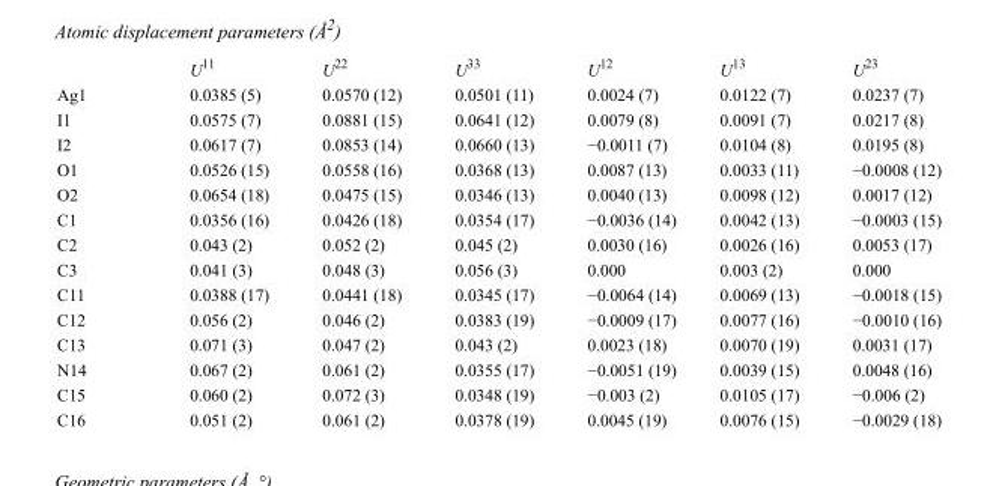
<table><thead><tr><td></td><td>U<sup>11</sup></td><td>U<sup>22</sup></td><td>U<sup>33</sup></td><td>U<sup>12</sup></td><td>U<sup>13</sup></td><td>U<sup>23</sup></td></tr></thead><tbody><tr><td>Ag1</td><td>0.0385 (5)</td><td>0.0570 (12)</td><td>0.0501 (11)</td><td>0.0024 (7)</td><td>0.0122 (7)</td><td>0.0237 (7)</td></tr><tr><td>I1</td><td>0.0575 (7)</td><td>0.0881 (15)</td><td>0.0641 (12)</td><td>0.0079 (8)</td><td>0.0091 (7)</td><td>0.0217 (8)</td></tr><tr><td>I2</td><td>0.0617 (7)</td><td>0.0853 (14)</td><td>0.0660 (13)</td><td>−0.0011 (7)</td><td>0.0104 (8)</td><td>0.0195 (8)</td></tr><tr><td>O1</td><td>0.0526 (15)</td><td>0.0558 (16)</td><td>0.0368 (13)</td><td>0.0087 (13)</td><td>0.0033 (11)</td><td>−0.0008 (12)</td></tr><tr><td>O2</td><td>0.0654 (18)</td><td>0.0475 (15)</td><td>0.0346 (13)</td><td>0.0040 (13)</td><td>0.0098 (12)</td><td>0.0017 (12)</td></tr><tr><td>C1</td><td>0.0356 (16)</td><td>0.0426 (18)</td><td>0.0354 (17)</td><td>−0.0036 (14)</td><td>0.0042 (13)</td><td>−0.0003 (15)</td></tr><tr><td>C2</td><td>0.043 (2)</td><td>0.052 (2)</td><td>0.045 (2)</td><td>0.0030 (16)</td><td>0.0026 (16)</td><td>0.0053 (17)</td></tr><tr><td>C3</td><td>0.041 (3)</td><td>0.048 (3)</td><td>0.056 (3)</td><td>0.000</td><td>0.003 (2)</td><td>0.000</td></tr><tr><td>C11</td><td>0.0388 (17)</td><td>0.0441 (18)</td><td>0.0345 (17)</td><td>−0.0064 (14)</td><td>0.0069 (13)</td><td>−0.0018 (15)</td></tr><tr><td>C12</td><td>0.056 (2)</td><td>0.046 (2)</td><td>0.0383 (19)</td><td>−0.0009 (17)</td><td>0.0077 (16)</td><td>−0.0010 (16)</td></tr><tr><td>C13</td><td>0.071 (3)</td><td>0.047 (2)</td><td>0.043 (2)</td><td>0.0023 (18)</td><td>0.0070 (19)</td><td>0.0031 (17)</td></tr><tr><td>N14</td><td>0.067 (2)</td><td>0.061 (2)</td><td>0.0355 (17)</td><td>−0.0051 (19)</td><td>0.0039 (15)</td><td>0.0048 (16)</td></tr><tr><td>C15</td><td>0.060 (2)</td><td>0.072 (3)</td><td>0.0348 (19)</td><td>−0.003 (2)</td><td>0.0105 (17)</td><td>−0.006 (2)</td></tr><tr><td>C16</td><td>0.051 (2)</td><td>0.061 (2)</td><td>0.0378 (19)</td><td>0.0045 (19)</td><td>0.0076 (15)</td><td>−0.0029 (18)</td></tr></tbody></table>